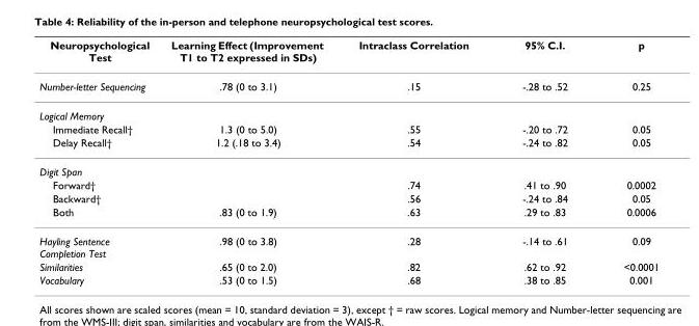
<table><thead><tr><td>Neuropsychological Test</td><td>Learning Effect (Improvement T1 to T2 expressed in SDs)</td><td>Intraclass Correlation</td><td>95% C.I.</td><td>p</td></tr></thead><tbody><tr><td>Number-letter Sequencing</td><td>.78 (0 to 3.1)</td><td>.15</td><td>-.28 to .52</td><td>0.25</td></tr><tr><td colspan="5">Logical Memory</td></tr><tr><td>Immediate Recall†</td><td>1.3 (0 to 5.0)</td><td>.55</td><td>-.20 to .72</td><td>0.05</td></tr><tr><td>Delay Recall†</td><td>1.2 (.18 to 3.4)</td><td>.54</td><td>-.24 to .82</td><td>0.05</td></tr><tr><td colspan="5">Digit Span</td></tr><tr><td>Forward†</td><td></td><td>.74</td><td>.41 to .90</td><td>0.0002</td></tr><tr><td>Backward†</td><td></td><td>.56</td><td>-.24 to .84</td><td>0.05</td></tr><tr><td>Both</td><td>.83 (0 to 1.9)</td><td>.63</td><td>.29 to .83</td><td>0.0006</td></tr><tr><td>Hayling Sentence Completion Test</td><td>.98 (0 to 3.8)</td><td>.28</td><td>-.14 to .61</td><td>0.09</td></tr><tr><td>Similarities</td><td>.65 (0 to 2.0)</td><td>.82</td><td>.62 to .92</td><td>&lt;0.0001</td></tr><tr><td>Vocabulary</td><td>.53 (0 to 1.5)</td><td>.68</td><td>.38 to .85</td><td>0.001</td></tr></tbody></table>